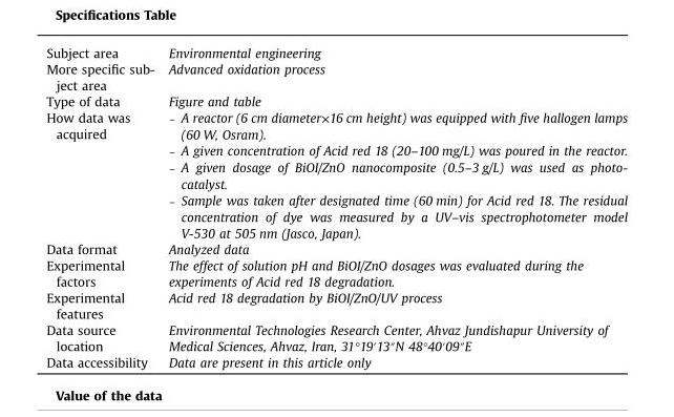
<table><tbody><tr><td>Subject area</td><td>Environmental engineering</td></tr><tr><td>More specific sub- ject area</td><td>Advanced oxidation process</td></tr><tr><td>Type of data</td><td>Figure and table</td></tr><tr><td>How data was acquired</td><td>– A reactor (6 cm diameter×16 cm height) was equipped with five hallogen lamps (60 W, Osram). – A given concentration of Acid red 18 (20–100 mg/L) was poured in the reactor. – A given dosage of BiOI/ZnO nanocomposite (0.5–3 g/L) was used as photo- catalyst. – Sample was taken after designated time (60 min) for Acid red 18. The residual concentration of dye was measured by a UV–vis spectrophotometer model V-530 at 505 nm (Jasco, Japan).</td></tr><tr><td>Data format</td><td>Analyzed data</td></tr><tr><td>Experimental factors</td><td>The effect of solution pH and BiOI/ZnO dosages was evaluated during the experiments of Acid red 18 degradation.</td></tr><tr><td>Experimental features</td><td>Acid red 18 degradation by BiOI/ZnO/UV process</td></tr><tr><td>Data source location</td><td>Environmental Technologies Research Center, Ahvaz Jundishapur University of Medical Sciences, Ahvaz, Iran, 31°19′13″N 48°40′09″E</td></tr><tr><td>Data accessibility</td><td>Data are present in this article only</td></tr></tbody></table>